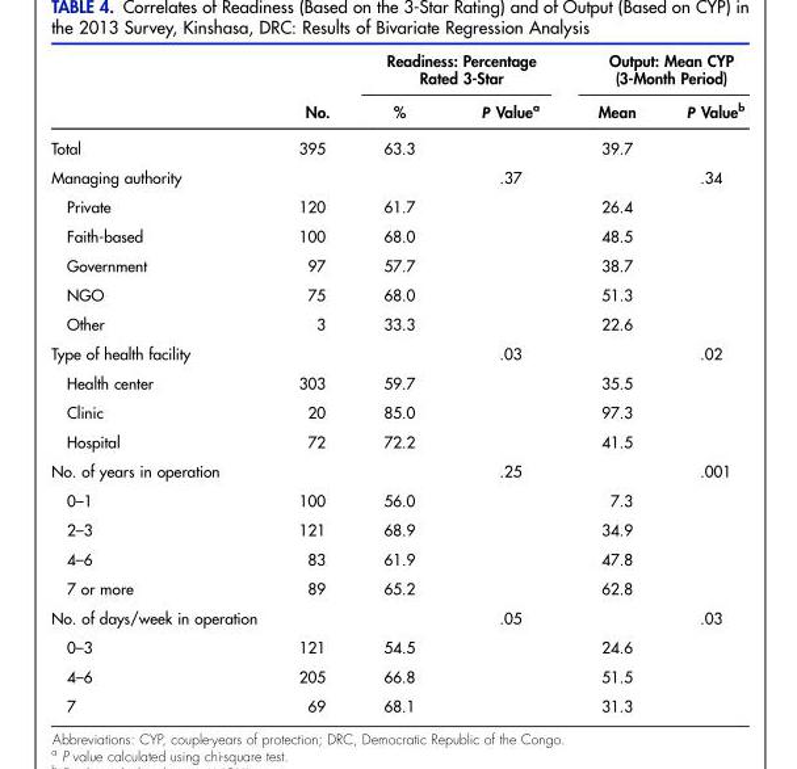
<table><thead><tr><td rowspan="2"></td><td rowspan="2">No.</td><td colspan="2">Readiness: Percentage Rated 3-Star</td><td colspan="2">Output: Mean CYP (3-Month Period)</td></tr><tr><td>%</td><td>P Value<sup>a</sup></td><td>Mean</td><td>P Value<sup>b</sup></td></tr></thead><tbody><tr><td>Total</td><td>395</td><td>63.3</td><td></td><td>39.7</td><td></td></tr><tr><td>Managing authority</td><td></td><td></td><td>.37</td><td></td><td>.34</td></tr><tr><td>Private</td><td>120</td><td>61.7</td><td></td><td>26.4</td><td></td></tr><tr><td>Faith-based</td><td>100</td><td>68.0</td><td></td><td>48.5</td><td></td></tr><tr><td>Government</td><td>97</td><td>57.7</td><td></td><td>38.7</td><td></td></tr><tr><td>NGO</td><td>75</td><td>68.0</td><td></td><td>51.3</td><td></td></tr><tr><td>Other</td><td>3</td><td>33.3</td><td></td><td>22.6</td><td></td></tr><tr><td>Type of health facility</td><td></td><td></td><td>.03</td><td></td><td>.02</td></tr><tr><td>Health center</td><td>303</td><td>59.7</td><td></td><td>35.5</td><td></td></tr><tr><td>Clinic</td><td>20</td><td>85.0</td><td></td><td>97.3</td><td></td></tr><tr><td>Hospital</td><td>72</td><td>72.2</td><td></td><td>41.5</td><td></td></tr><tr><td>No. of years in operation</td><td></td><td></td><td>.25</td><td></td><td>.001</td></tr><tr><td>0–1</td><td>100</td><td>56.0</td><td></td><td>7.3</td><td></td></tr><tr><td>2–3</td><td>121</td><td>68.9</td><td></td><td>34.9</td><td></td></tr><tr><td>4–6</td><td>83</td><td>61.9</td><td></td><td>47.8</td><td></td></tr><tr><td>7 or more</td><td>89</td><td>65.2</td><td></td><td>62.8</td><td></td></tr><tr><td>No. of days/week in operation</td><td></td><td></td><td>.05</td><td></td><td>.03</td></tr><tr><td>0–3</td><td>121</td><td>54.5</td><td></td><td>24.6</td><td></td></tr><tr><td>4–6</td><td>205</td><td>66.8</td><td></td><td>51.5</td><td></td></tr><tr><td>7</td><td>69</td><td>68.1</td><td></td><td>31.3</td><td></td></tr></tbody></table>